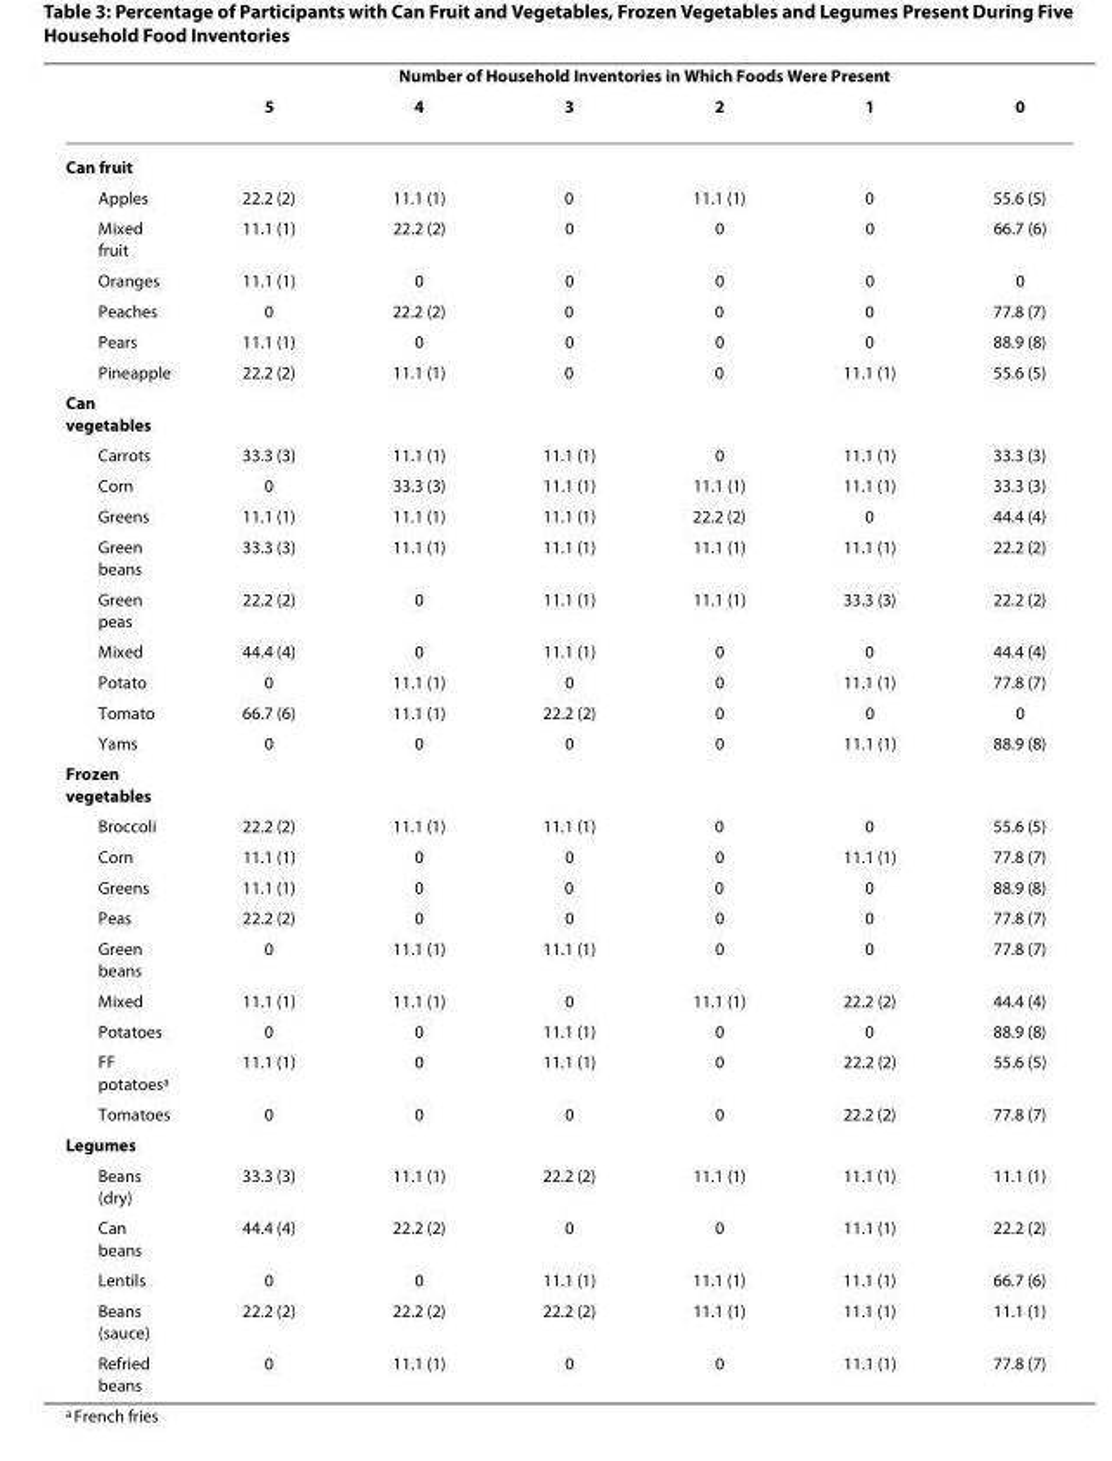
<table><thead><tr><td rowspan="2"></td><td colspan="6">Number of Household Inventories in Which Foods Were Present</td></tr><tr><td>5</td><td>4</td><td>3</td><td>2</td><td>1</td><td>0</td></tr></thead><tbody><tr><td colspan="7">Can fruit</td></tr><tr><td>Apples</td><td>22.2 (2)</td><td>11.1 (1)</td><td>0</td><td>11.1 (1)</td><td>0</td><td>55.6 (5)</td></tr><tr><td>Mixed fruit</td><td>11.1 (1)</td><td>22.2 (2)</td><td>0</td><td>0</td><td>0</td><td>66.7 (6)</td></tr><tr><td>Oranges</td><td>11.1 (1)</td><td>0</td><td>0</td><td>0</td><td>0</td><td>0</td></tr><tr><td>Peaches</td><td>0</td><td>22.2 (2)</td><td>0</td><td>0</td><td>0</td><td>77.8 (7)</td></tr><tr><td>Pears</td><td>11.1 (1)</td><td>0</td><td>0</td><td>0</td><td>0</td><td>88.9 (8)</td></tr><tr><td>Pineapple</td><td>22.2 (2)</td><td>11.1 (1)</td><td>0</td><td>0</td><td>11.1 (1)</td><td>55.6 (5)</td></tr><tr><td colspan="7">Can vegetables</td></tr><tr><td>Carrots</td><td>33.3 (3)</td><td>11.1 (1)</td><td>11.1 (1)</td><td>0</td><td>11.1 (1)</td><td>33.3 (3)</td></tr><tr><td>Corn</td><td>0</td><td>33.3 (3)</td><td>11.1 (1)</td><td>11.1 (1)</td><td>11.1 (1)</td><td>33.3 (3)</td></tr><tr><td>Greens</td><td>11.1 (1)</td><td>11.1 (1)</td><td>11.1 (1)</td><td>22.2 (2)</td><td>0</td><td>44.4 (4)</td></tr><tr><td>Green beans</td><td>33.3 (3)</td><td>11.1 (1)</td><td>11.1 (1)</td><td>11.1 (1)</td><td>11.1 (1)</td><td>22.2 (2)</td></tr><tr><td>Green peas</td><td>22.2 (2)</td><td>0</td><td>11.1 (1)</td><td>11.1 (1)</td><td>33.3 (3)</td><td>22.2 (2)</td></tr><tr><td>Mixed</td><td>44.4 (4)</td><td>0</td><td>11.1 (1)</td><td>0</td><td>0</td><td>44.4 (4)</td></tr><tr><td>Potato</td><td>0</td><td>11.1 (1)</td><td>0</td><td>0</td><td>11.1 (1)</td><td>77.8 (7)</td></tr><tr><td>Tomato</td><td>66.7 (6)</td><td>11.1 (1)</td><td>22.2 (2)</td><td>0</td><td>0</td><td>0</td></tr><tr><td>Yams</td><td>0</td><td>0</td><td>0</td><td>0</td><td>11.1 (1)</td><td>88.9 (8)</td></tr><tr><td colspan="7">Frozen vegetables</td></tr><tr><td>Broccoli</td><td>22.2 (2)</td><td>11.1 (1)</td><td>11.1 (1)</td><td>0</td><td>0</td><td>55.6 (5)</td></tr><tr><td>Corn</td><td>11.1 (1)</td><td>0</td><td>0</td><td>0</td><td>11.1 (1)</td><td>77.8 (7)</td></tr><tr><td>Greens</td><td>11.1 (1)</td><td>0</td><td>0</td><td>0</td><td>0</td><td>88.9 (8)</td></tr><tr><td>Peas</td><td>22.2 (2)</td><td>0</td><td>0</td><td>0</td><td>0</td><td>77.8 (7)</td></tr><tr><td>Green beans</td><td>0</td><td>11.1 (1)</td><td>11.1 (1)</td><td>0</td><td>0</td><td>77.8 (7)</td></tr><tr><td>Mixed</td><td>11.1 (1)</td><td>11.1 (1)</td><td>0</td><td>11.1 (1)</td><td>22.2 (2)</td><td>44.4 (4)</td></tr><tr><td>Potatoes</td><td>0</td><td>0</td><td>11.1 (1)</td><td>0</td><td>0</td><td>88.9 (8)</td></tr><tr><td>FF potatoes<sup>a</sup></td><td>11.1 (1)</td><td>0</td><td>11.1 (1)</td><td>0</td><td>22.2 (2)</td><td>55.6 (5)</td></tr><tr><td>Tomatoes</td><td>0</td><td>0</td><td>0</td><td>0</td><td>22.2 (2)</td><td>77.8 (7)</td></tr><tr><td colspan="7">Legumes</td></tr><tr><td>Beans (dry)</td><td>33.3 (3)</td><td>11.1 (1)</td><td>22.2 (2)</td><td>11.1 (1)</td><td>11.1 (1)</td><td>11.1 (1)</td></tr><tr><td>Can beans</td><td>44.4 (4)</td><td>22.2 (2)</td><td>0</td><td>0</td><td>11.1 (1)</td><td>22.2 (2)</td></tr><tr><td>Lentils</td><td>0</td><td>0</td><td>11.1 (1)</td><td>11.1 (1)</td><td>11.1 (1)</td><td>66.7 (6)</td></tr><tr><td>Beans (sauce)</td><td>22.2 (2)</td><td>22.2 (2)</td><td>22.2 (2)</td><td>11.1 (1)</td><td>11.1 (1)</td><td>11.1 (1)</td></tr><tr><td>Refried beans</td><td>0</td><td>11.1 (1)</td><td>0</td><td>0</td><td>11.1 (1)</td><td>77.8 (7)</td></tr></tbody></table>